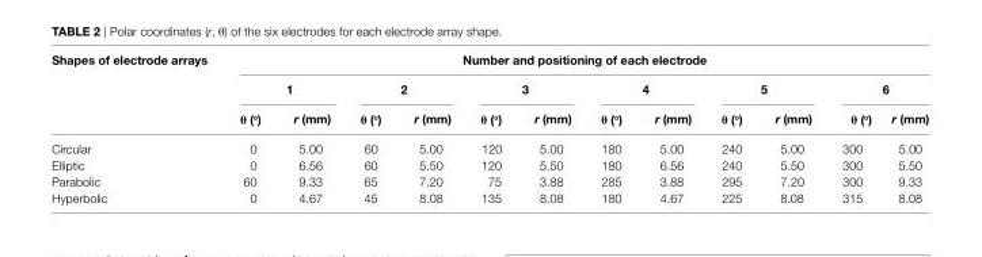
<table><thead><tr><td rowspan="3">shapes of electrode arrays</td><td colspan="12">number and positioning of each electrode</td></tr><tr><td colspan="2">1</td><td colspan="2">2</td><td colspan="2">3</td><td colspan="2">4</td><td colspan="2">5</td><td colspan="2">6</td></tr><tr><td>θ (<sup>o</sup>)</td><td>r (mm)</td><td>θ (<sup>o</sup>)</td><td>r (mm)</td><td>θ (<sup>o</sup>)</td><td>r (mm)</td><td>θ (<sup>o</sup>)</td><td>r (mm)</td><td>θ (<sup>o</sup>)</td><td>r (mm)</td><td>θ (<sup>o</sup>)</td><td>r (mm)</td></tr></thead><tbody><tr><td>Circular</td><td>0</td><td>5.00</td><td>60</td><td>5.00</td><td>120</td><td>5.00</td><td>180</td><td>5.00</td><td>240</td><td>5.00</td><td>300</td><td>5.00</td></tr><tr><td>Elliptic</td><td>0</td><td>6.56</td><td>60</td><td>5.50</td><td>120</td><td>5.50</td><td>180</td><td>6.56</td><td>240</td><td>5.50</td><td>300</td><td>5.50</td></tr><tr><td>Parabolic</td><td>60</td><td>9.33</td><td>65</td><td>7.20</td><td>75</td><td>3.88</td><td>285</td><td>3.88</td><td>295</td><td>7.20</td><td>300</td><td>9.33</td></tr><tr><td>Hyperbolic</td><td>0</td><td>4.67</td><td>45</td><td>8.08</td><td>135</td><td>8.08</td><td>180</td><td>4.67</td><td>225</td><td>8.08</td><td>315</td><td>8.08</td></tr></tbody></table>